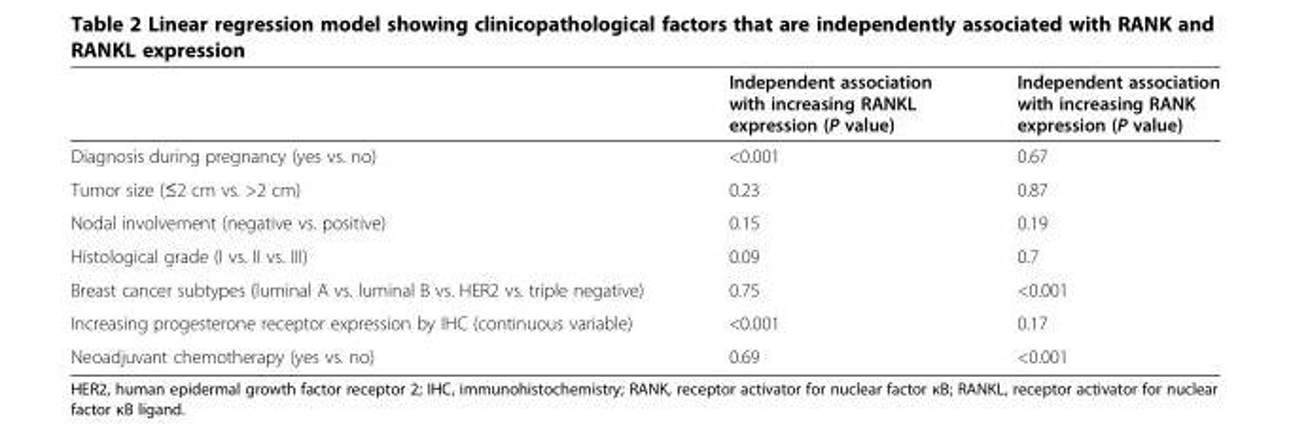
<table><thead><tr><td></td><td>Independent association with increasing RANKL expression (P value)</td><td>Independent association with increasing RANK expression (P value)</td></tr></thead><tbody><tr><td>Diagnosis during pregnancy (yes vs. no)</td><td>&lt;0.001</td><td>0.67</td></tr><tr><td>Tumor size (≤2 cm vs. &gt;2 cm)</td><td>0.23</td><td>0.87</td></tr><tr><td>Nodal involvement (negative vs. positive)</td><td>0.15</td><td>0.19</td></tr><tr><td>Histological grade (I vs. II vs. III)</td><td>0.09</td><td>0.7</td></tr><tr><td>Breast cancer subtypes (luminal A vs. luminal B vs. HER2 vs. triple negative)</td><td>0.75</td><td>&lt;0.001</td></tr><tr><td>Increasing progesterone receptor expression by IHC (continuous variable)</td><td>&lt;0.001</td><td>0.17</td></tr><tr><td>Neoadjuvant chemotherapy (yes vs. no)</td><td>0.69</td><td>&lt;0.001</td></tr></tbody></table>